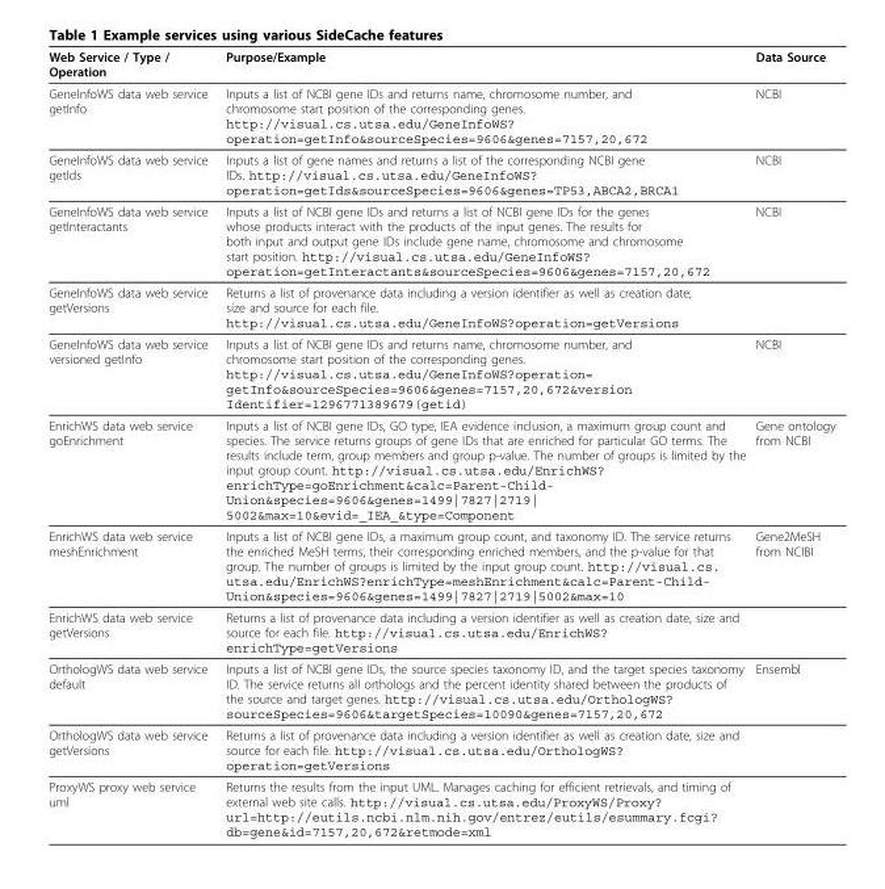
<table><thead><tr><td>Web Service / Type / Operation</td><td>Purpose/Example</td><td>Data Source</td></tr></thead><tbody><tr><td>GeneInfoWS data web service getInfo</td><td>Inputs a list of NCBI gene IDs and returns name, chromosome number, and chromosome start position of the corresponding genes. http://visual.cs.utsa.edu/GeneInfoWS? operation=getInfo&amp;sourceSpecies=9606&amp;genes=7157,20,672</td><td>NCBI</td></tr><tr><td>GeneInfoWS data web service getIds</td><td>Inputs a list of gene names and returns a list of the corresponding NCBI gene IDs. http://visual.cs.utsa.edu/GeneInfoWS? operation=getIds&amp;sourceSpecies=9606&amp;genes=TP53,ABCA2,BRCA1</td><td>NCBI</td></tr><tr><td>GeneInfoWS data web service getInteractants</td><td>Inputs a list of NCBI gene IDs and returns a list of NCBI gene IDs for the genes whose products interact with the products of the input genes. The results for both input and output gene IDs include gene name, chromosome and chromosome start position. http://visual.cs.utsa.edu/GeneInfoWS? operation=getInteractants&amp;sourceSpecies=9606&amp;genes=7157,20,672</td><td>NCBI</td></tr><tr><td>GeneInfoWS data web service getVersions</td><td>Returns a list of provenance data including a version identifier as well as creation date, size and source for each file. http://visual.cs.utsa.edu/GeneInfoWS?operation=getVersions</td><td></td></tr><tr><td>GeneInfoWS data web service versioned getInfo</td><td>Inputs a list of NCBI gene IDs and returns name, chromosome number, and chromosome start position of the corresponding genes. http://visual.cs.utsa.edu/GeneInfoWS?operation= getInfo&amp;sourceSpecies=9606&amp;genes=7157,20,672&amp;version Identifier=1296771389679(getid)</td><td>NCBI</td></tr><tr><td>EnrichWS data web service goEnrichment</td><td>Inputs a list of NCBI gene IDs, GO type, IEA evidence inclusion, a maximum group count and species. The service returns groups of gene IDs that are enriched for particular GO terms. The results include term, group members and group p-value. The number of groups is limited by the input group count. http://visual.cs.utsa.edu/EnrichWS? enrichType=goEnrichment&amp;calc=Parent-Child- Union&amp;species=9606&amp;genes=1499|7827|2719| 5002&amp;max=10&amp;evid=_IEA_&amp;type=Component</td><td>Gene ontology from NCBI</td></tr><tr><td>EnrichWS data web service meshEnrichment</td><td>Inputs a list of NCBI gene IDs, a maximum group count, and taxonomy ID. The service returns the enriched MeSH terms, their corresponding enriched members, and the p-value for that group. The number of groups is limited by the input group count. http://visual.cs. utsa.edu/EnrichWS?enrichType=meshEnrichment&amp;calc=Parent-Child- Union&amp;species=9606&amp;genes=1499|7827|2719|5002&amp;max=10</td><td>Gene2MeSH from NCIBI</td></tr><tr><td>EnrichWS data web service getVersions</td><td>Returns a list of provenance data including a version identifier as well as creation date, size and source for each file. http://visual.cs.utsa.edu/EnrichWS? enrichType=getVersions</td><td></td></tr><tr><td>OrthologWS data web service default</td><td>Inputs a list of NCBI gene IDs, the source species taxonomy ID, and the target species taxonomy ID. The service returns all orthologs and the percent identity shared between the products of the source and target genes. http://visual.cs.utsa.edu/OrthologWS? sourceSpecies=9606&amp;targetSpecies=10090&amp;genes=7157,20,672</td><td>Ensembl</td></tr><tr><td>OrthologWS data web service getVersions</td><td>Returns a list of provenance data including a version identifier as well as creation date, size and source for each file. http://visual.cs.utsa.edu/OrthologWS? operation=getVersions</td><td></td></tr><tr><td>ProxyWS proxy web service uml</td><td>Returns the results from the input UML. Manages caching for efficient retrievals, and timing of external web site calls. http://visual.cs.utsa.edu/ProxyWS/Proxy? url=http://eutils.ncbi.nlm.nih.gov/entrez/eutils/esummary.fcgi? db=gene&amp;id=7157,20,672&amp;retmode=xml</td><td></td></tr></tbody></table>